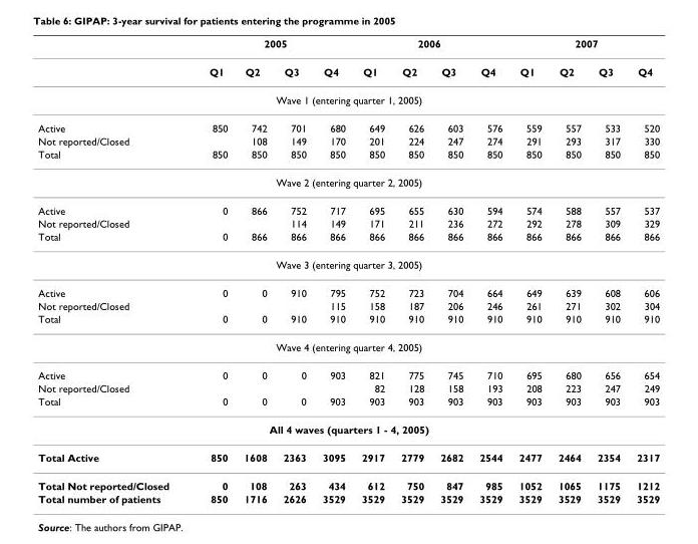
<table><thead><tr><td rowspan="2"></td><td colspan="4">2005</td><td colspan="4">2006</td><td colspan="4">2007</td></tr><tr><td>Q1</td><td>Q2</td><td>Q3</td><td>Q4</td><td>Q1</td><td>Q2</td><td>Q3</td><td>Q4</td><td>Q1</td><td>Q2</td><td>Q3</td><td>Q4</td></tr></thead><tbody><tr><td colspan="13">Wave 1 (entering quarter 1, 2005)</td></tr><tr><td>Active</td><td>850</td><td>742</td><td>701</td><td>680</td><td>649</td><td>626</td><td>603</td><td>576</td><td>559</td><td>557</td><td>533</td><td>520</td></tr><tr><td>Not reported/Closed</td><td></td><td>108</td><td>149</td><td>170</td><td>201</td><td>224</td><td>247</td><td>274</td><td>291</td><td>293</td><td>317</td><td>330</td></tr><tr><td>Total</td><td>850</td><td>850</td><td>850</td><td>850</td><td>850</td><td>850</td><td>850</td><td>850</td><td>850</td><td>850</td><td>850</td><td>850</td></tr><tr><td colspan="13">Wave 2 (entering quarter 2, 2005)</td></tr><tr><td>Active</td><td>0</td><td>866</td><td>752</td><td>717</td><td>695</td><td>655</td><td>630</td><td>594</td><td>574</td><td>588</td><td>557</td><td>537</td></tr><tr><td>Not reported/Closed</td><td></td><td></td><td>114</td><td>149</td><td>171</td><td>211</td><td>236</td><td>272</td><td>292</td><td>278</td><td>309</td><td>329</td></tr><tr><td>Total</td><td>0</td><td>866</td><td>866</td><td>866</td><td>866</td><td>866</td><td>866</td><td>866</td><td>866</td><td>866</td><td>866</td><td>866</td></tr><tr><td colspan="13">Wave 3 (entering quarter 3, 2005)</td></tr><tr><td>Active</td><td>0</td><td>0</td><td>910</td><td>795</td><td>752</td><td>723</td><td>704</td><td>664</td><td>649</td><td>639</td><td>608</td><td>606</td></tr><tr><td>Not reported/Closed</td><td></td><td></td><td></td><td>115</td><td>158</td><td>187</td><td>206</td><td>246</td><td>261</td><td>271</td><td>302</td><td>304</td></tr><tr><td>Total</td><td>0</td><td>0</td><td>910</td><td>910</td><td>910</td><td>910</td><td>910</td><td>910</td><td>910</td><td>910</td><td>910</td><td>910</td></tr><tr><td colspan="13">Wave 4 (entering quarter 4, 2005)</td></tr><tr><td>Active</td><td>0</td><td>0</td><td>0</td><td>903</td><td>821</td><td>775</td><td>745</td><td>710</td><td>695</td><td>680</td><td>656</td><td>654</td></tr><tr><td>Not reported/Closed</td><td></td><td></td><td></td><td></td><td>82</td><td>128</td><td>158</td><td>193</td><td>208</td><td>223</td><td>247</td><td>249</td></tr><tr><td>Total</td><td>0</td><td>0</td><td>0</td><td>903</td><td>903</td><td>903</td><td>903</td><td>903</td><td>903</td><td>903</td><td>903</td><td>903</td></tr><tr><td colspan="13">All 4 waves (quarters 1 - 4, 2005)</td></tr><tr><td>Total Active</td><td>850</td><td>1608</td><td>2363</td><td>3095</td><td>2917</td><td>2779</td><td>2682</td><td>2544</td><td>2477</td><td>2464</td><td>2354</td><td>2317</td></tr><tr><td>Total Not reported/Closed</td><td>0</td><td>108</td><td>263</td><td>434</td><td>612</td><td>750</td><td>847</td><td>985</td><td>1052</td><td>1065</td><td>1175</td><td>1212</td></tr><tr><td>Total number of patients</td><td>850</td><td>1716</td><td>2626</td><td>3529</td><td>3529</td><td>3529</td><td>3529</td><td>3529</td><td>3529</td><td>3529</td><td>3529</td><td>3529</td></tr></tbody></table>